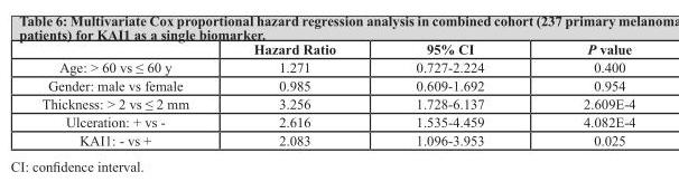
<table><thead><tr><td></td><td>Hazard Ratio</td><td>95% CI</td><td>P value</td></tr></thead><tbody><tr><td>Age: &gt; 60 vs ≤ 60 y</td><td>1.271</td><td>0.727-2.224</td><td>0.400</td></tr><tr><td>Gender: male vs female</td><td>0.985</td><td>0.609-1.692</td><td>0.954</td></tr><tr><td>Thickness: &gt; 2 vs ≤ 2 mm</td><td>3.256</td><td>1.728-6.137</td><td>2.609E-4</td></tr><tr><td>Ulceration: + vs -</td><td>2.616</td><td>1.535-4.459</td><td>4.082E-4</td></tr><tr><td>KAI1: - vs +</td><td>2.083</td><td>1.096-3.953</td><td>0.025</td></tr></tbody></table>